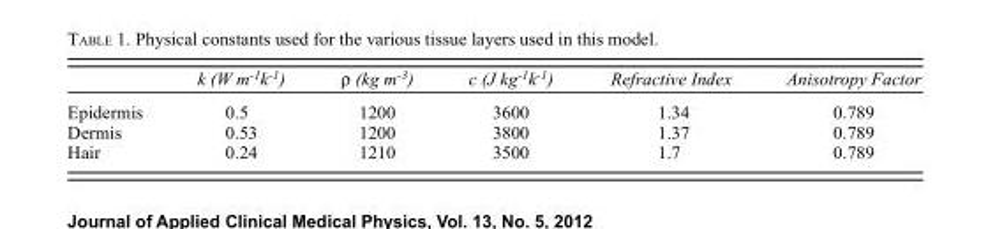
<table><thead><tr><td></td><td>k (W m<sup>-1</sup>k<sup>-1</sup>)</td><td>ρ (kg m<sup>-3</sup>)</td><td>c (J kg<sup>-1</sup>k<sup>-1</sup>)</td><td>Refractive Index</td><td>Anisotropy Factor</td></tr></thead><tbody><tr><td>Epidermis</td><td>0.5</td><td>1200</td><td>3600</td><td>1.34</td><td>0.789</td></tr><tr><td>Dermis</td><td>0.53</td><td>1200</td><td>3800</td><td>1.37</td><td>0.789</td></tr><tr><td>Hair</td><td>0.24</td><td>1210</td><td>3500</td><td>1.7</td><td>0.789</td></tr></tbody></table>